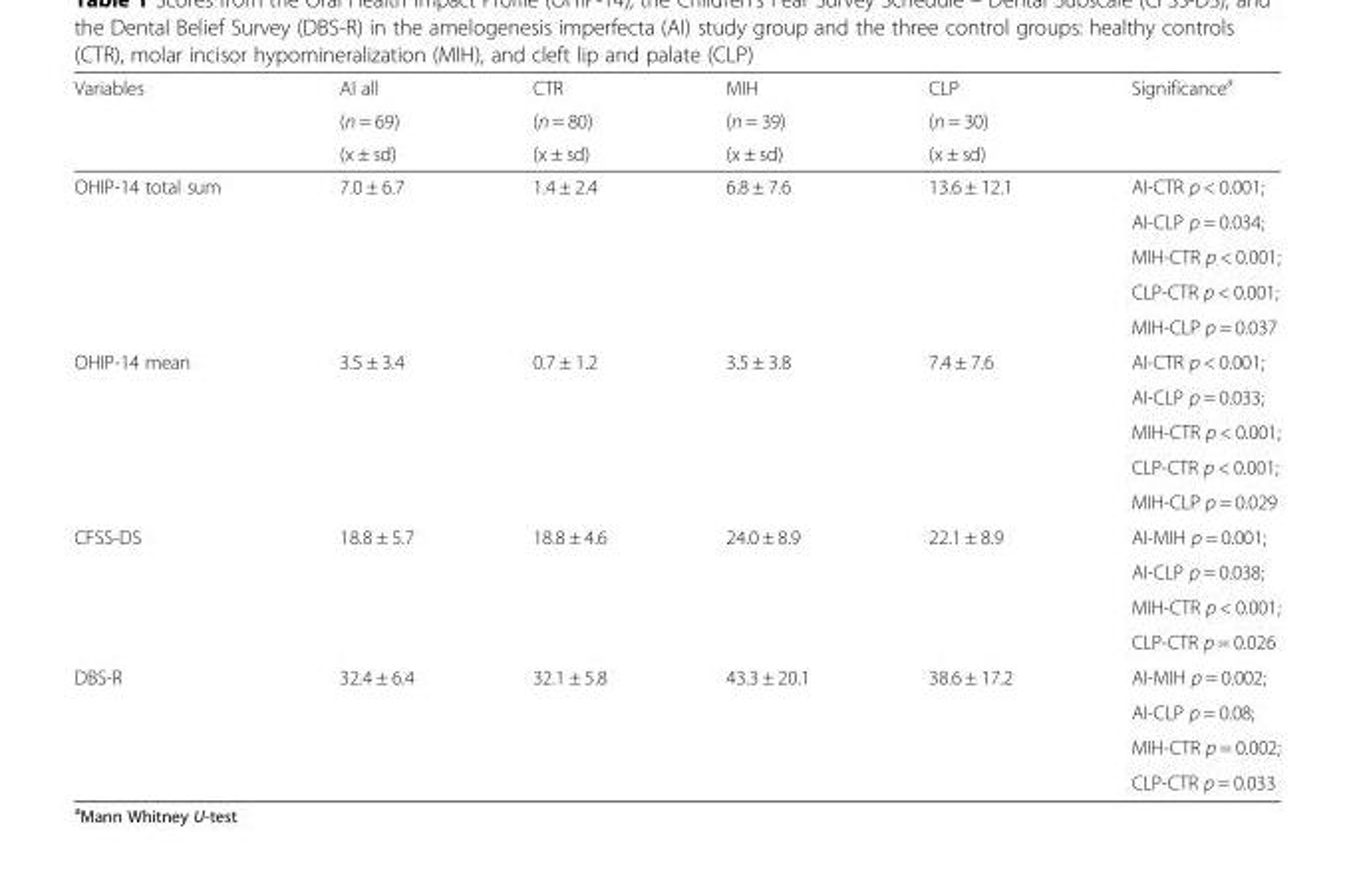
<table><thead><tr><td rowspan="3">Variables</td><td rowspan="3">AI all (n = 69) (x ± sd)</td><td rowspan="3">CTR (n = 80) (x ± sd)</td><td rowspan="3">MIH (n = 39) (x ± sd)</td><td rowspan="3">CLP (n = 30) (x ± sd)</td><td rowspan="3">Significance<sup>a</sup></td></tr><tr></tr><tr></tr></thead><tbody><tr><td rowspan="5">OHIP-14 total sum</td><td rowspan="5">7.0 ± 6.7</td><td rowspan="5">1.4 ± 2.4</td><td rowspan="5">6.8 ± 7.6</td><td rowspan="5">13.6 ± 12.1</td><td>AI-CTR p &lt; 0.001;</td></tr><tr><td>AI-CLP p = 0.034;</td></tr><tr><td>MIH-CTR p &lt; 0.001;</td></tr><tr><td>CLP-CTR p &lt; 0.001;</td></tr><tr><td>MIH-CLP p = 0.037</td></tr><tr><td rowspan="5">OHIP-14 mean</td><td rowspan="5">3.5 ± 3.4</td><td rowspan="5">0.7 ± 1.2</td><td rowspan="5">3.5 ± 3.8</td><td rowspan="5">7.4 ± 7.6</td><td>AI-CTR p &lt; 0.001;</td></tr><tr><td>AI-CLP p = 0.033;</td></tr><tr><td>MIH-CTR p &lt; 0.001;</td></tr><tr><td>CLP-CTR p &lt; 0.001;</td></tr><tr><td>MIH-CLP p = 0.029</td></tr><tr><td rowspan="4">CFSS-DS</td><td rowspan="4">18.8 ± 5.7</td><td rowspan="4">18.8 ± 4.6</td><td rowspan="4">24.0 ± 8.9</td><td rowspan="4">22.1 ± 8.9</td><td>AI-MIH p = 0.001;</td></tr><tr><td>AI-CLP p = 0.038;</td></tr><tr><td>MIH-CTR p &lt; 0.001;</td></tr><tr><td>CLP-CTR p = 0.026</td></tr><tr><td rowspan="4">DBS-R</td><td rowspan="4">32.4 ± 6.4</td><td rowspan="4">32.1 ± 5.8</td><td rowspan="4">43.3 ± 20.1</td><td rowspan="4">38.6 ± 17.2</td><td>AI-MIH p = 0.002;</td></tr><tr><td>AI-CLP p = 0.08;</td></tr><tr><td>MIH-CTR p = 0.002;</td></tr><tr><td>CLP-CTR p = 0.033</td></tr></tbody></table>